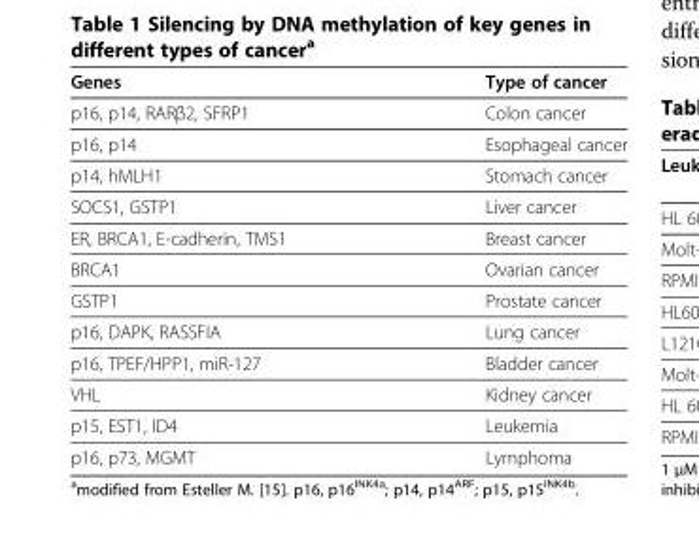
<table><thead><tr><td>Genes</td><td>Type of cancer</td></tr></thead><tbody><tr><td>p16, p14, RARβ2, SFRP1</td><td>Colon cancer</td></tr><tr><td>p16, p14</td><td>Esophageal cancer</td></tr><tr><td>p14, hMLH1</td><td>Stomach cancer</td></tr><tr><td>SOCS1, GSTP1</td><td>Liver cancer</td></tr><tr><td>ER, BRCA1, E-cadherin, TMS1</td><td>Breast cancer</td></tr><tr><td>BRCA1</td><td>Ovarian cancer</td></tr><tr><td>GSTP1</td><td>Prostate cancer</td></tr><tr><td>p16, DAPK, RASSFIA</td><td>Lung cancer</td></tr><tr><td>p16, TPEF/HPP1, miR-127</td><td>Bladder cancer</td></tr><tr><td>VHL</td><td>Kidney cancer</td></tr><tr><td>p15, EST1, ID4</td><td>Leukemia</td></tr><tr><td>p16, p73, MGMT</td><td>Lymphoma</td></tr></tbody></table>